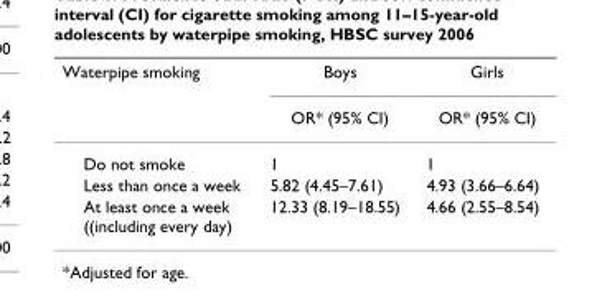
<table><thead><tr><td rowspan="2">Waterpipe smoking</td><td rowspan="2">Boys OR* (95% CI)</td><td rowspan="2">Girls OR* (95% CI)</td></tr><tr></tr></thead><tbody><tr><td>Do not smoke</td><td>1</td><td>1</td></tr><tr><td>Less than once a week</td><td>5.82 (4.45–7.61)</td><td>4.93 (3.66–6.64)</td></tr><tr><td>At least once a week ((including every day)</td><td>12.33 (8.19–18.55)</td><td>4.66 (2.55–8.54)</td></tr></tbody></table>